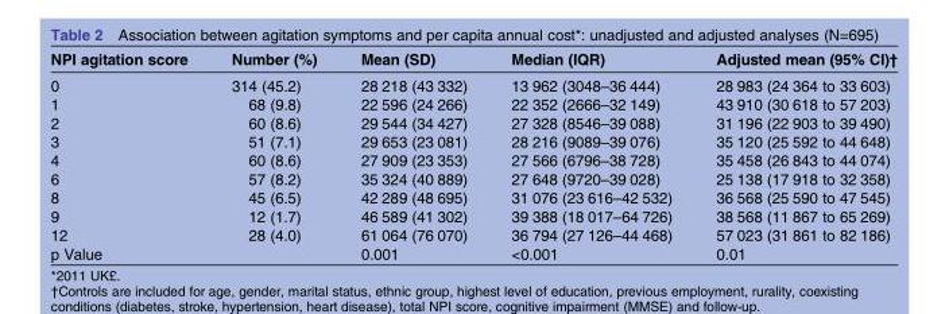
<table><thead><tr><td>NPI agitation score</td><td>Number (%)</td><td>Mean (SD)</td><td>Median (IQR)</td><td>Adjusted mean (95% CI)†</td></tr></thead><tbody><tr><td>0</td><td>314 (45.2)</td><td>28 218 (43 332)</td><td>13 962 (3048–36 444)</td><td>28 983 (24 364 to 33 603)</td></tr><tr><td>1</td><td>68 (9.8)</td><td>22 596 (24 266)</td><td>22 352 (2666–32 149)</td><td>43 910 (30 618 to 57 203)</td></tr><tr><td>2</td><td>60 (8.6)</td><td>29 544 (34 427)</td><td>27 328 (8546–39 088)</td><td>31 196 (22 903 to 39 490)</td></tr><tr><td>3</td><td>51 (7.1)</td><td>29 653 (23 081)</td><td>28 216 (9089–39 076)</td><td>35 120 (25 592 to 44 648)</td></tr><tr><td>4</td><td>60 (8.6)</td><td>27 909 (23 353)</td><td>27 566 (6796–38 728)</td><td>35 458 (26 843 to 44 074)</td></tr><tr><td>6</td><td>57 (8.2)</td><td>35 324 (40 889)</td><td>27 648 (9720–39 028)</td><td>25 138 (17 918 to 32 358)</td></tr><tr><td>8</td><td>45 (6.5)</td><td>42 289 (48 695)</td><td>31 076 (23 616–42 532)</td><td>36 568 (25 590 to 47 545)</td></tr><tr><td>9</td><td>12 (1.7)</td><td>46 589 (41 302)</td><td>39 388 (18 017–64 726)</td><td>38 568 (11 867 to 65 269)</td></tr><tr><td>12</td><td>28 (4.0)</td><td>61 064 (76 070)</td><td>36 794 (27 126–44 468)</td><td>57 023 (31 861 to 82 186)</td></tr><tr><td>p Value</td><td></td><td>0.001</td><td>&lt;0.001</td><td>0.01</td></tr></tbody></table>